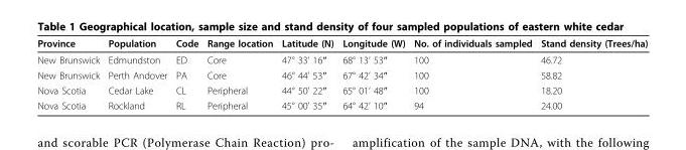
<table><thead><tr><td>Province</td><td>Population</td><td>Code</td><td>Range location</td><td>Latitude (N)</td><td>Longitude (W)</td><td>No. of individuals sampled</td><td>Stand density (Trees/ha)</td></tr></thead><tbody><tr><td>New Brunswick</td><td>Edmundston</td><td>ED</td><td>Core</td><td>47° 33’ 16″</td><td>68° 13’ 53″</td><td>100</td><td>46.72</td></tr><tr><td>New Brunswick</td><td>Perth Andover</td><td>PA</td><td>Core</td><td>46° 44’ 53″</td><td>67° 42’ 34″</td><td>100</td><td>58.82</td></tr><tr><td>Nova Scotia</td><td>Cedar Lake</td><td>CL</td><td>Peripheral</td><td>44° 50’ 22″</td><td>65° 01’ 48″</td><td>100</td><td>18.20</td></tr><tr><td>Nova Scotia</td><td>Rockland</td><td>RL</td><td>Peripheral</td><td>45° 00’ 35″</td><td>64° 42’ 10″</td><td>94</td><td>24.00</td></tr></tbody></table>